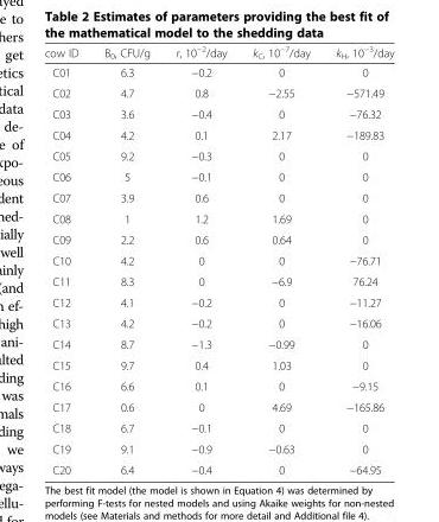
<table><thead><tr><td>cow ID</td><td>B<sub>0</sub>, CFU/g</td><td>r, 10<sup>−2</sup>/day</td><td>k<sub>C</sub>, 10<sup>−7</sup>/day</td><td>k<sub>H</sub>, 10<sup>−3</sup>/day</td></tr></thead><tbody><tr><td>C01</td><td>6.3</td><td>−0.2</td><td>0</td><td>0</td></tr><tr><td>C02</td><td>4.7</td><td>0.8</td><td>−2.55</td><td>−571.49</td></tr><tr><td>C03</td><td>3.6</td><td>−0.4</td><td>0</td><td>−76.32</td></tr><tr><td>C04</td><td>4.2</td><td>0.1</td><td>2.17</td><td>−189.83</td></tr><tr><td>C05</td><td>9.2</td><td>−0.3</td><td>0</td><td>0</td></tr><tr><td>C06</td><td>5</td><td>−0.1</td><td>0</td><td>0</td></tr><tr><td>C07</td><td>3.9</td><td>0.6</td><td>0</td><td>0</td></tr><tr><td>C08</td><td>1</td><td>1.2</td><td>1.69</td><td>0</td></tr><tr><td>C09</td><td>2.2</td><td>0.6</td><td>0.64</td><td>0</td></tr><tr><td>C10</td><td>4.2</td><td>0</td><td>0</td><td>−76.71</td></tr><tr><td>C11</td><td>8.3</td><td>0</td><td>−6.9</td><td>76.24</td></tr><tr><td>C12</td><td>4.1</td><td>−0.2</td><td>0</td><td>−11.27</td></tr><tr><td>C13</td><td>4.2</td><td>−0.2</td><td>0</td><td>−16.06</td></tr><tr><td>C14</td><td>8.7</td><td>−1.3</td><td>−0.99</td><td>0</td></tr><tr><td>C15</td><td>9.7</td><td>0.4</td><td>1.03</td><td>0</td></tr><tr><td>C16</td><td>6.6</td><td>0.1</td><td>0</td><td>−9.15</td></tr><tr><td>C17</td><td>0.6</td><td>0</td><td>4.69</td><td>−165.86</td></tr><tr><td>C18</td><td>6.7</td><td>−0.1</td><td>0</td><td>0</td></tr><tr><td>C19</td><td>9.1</td><td>−0.9</td><td>−0.63</td><td>0</td></tr><tr><td>C20</td><td>6.4</td><td>−0.4</td><td>0</td><td>−64.95</td></tr></tbody></table>